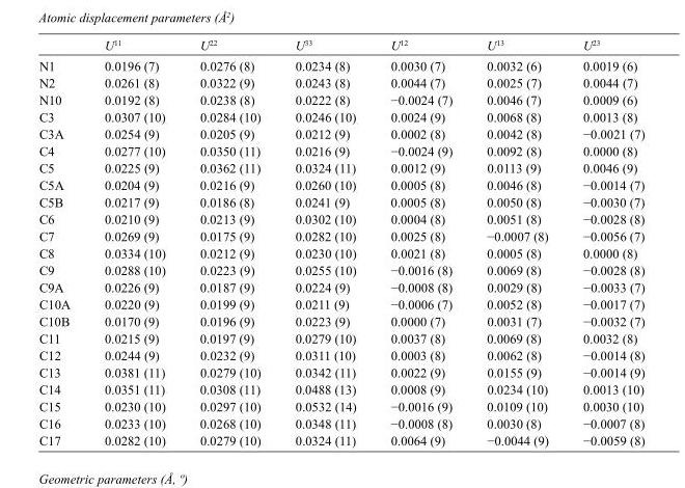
<table><thead><tr><td></td><td>U<sup>11</sup></td><td>U<sup>22</sup></td><td>U<sup>33</sup></td><td>U<sup>12</sup></td><td>U<sup>13</sup></td><td>U<sup>23</sup></td></tr></thead><tbody><tr><td>N1</td><td>0.0196 (7)</td><td>0.0276 (8)</td><td>0.0234 (8)</td><td>0.0030 (7)</td><td>0.0032 (6)</td><td>0.0019 (6)</td></tr><tr><td>N2</td><td>0.0261 (8)</td><td>0.0322 (9)</td><td>0.0243 (8)</td><td>0.0044 (7)</td><td>0.0025 (7)</td><td>0.0044 (7)</td></tr><tr><td>N10</td><td>0.0192 (8)</td><td>0.0238 (8)</td><td>0.0222 (8)</td><td>−0.0024 (7)</td><td>0.0046 (7)</td><td>0.0009 (6)</td></tr><tr><td>C3</td><td>0.0307 (10)</td><td>0.0284 (10)</td><td>0.0246 (10)</td><td>0.0024 (9)</td><td>0.0068 (8)</td><td>0.0013 (8)</td></tr><tr><td>C3A</td><td>0.0254 (9)</td><td>0.0205 (9)</td><td>0.0212 (9)</td><td>0.0002 (8)</td><td>0.0042 (8)</td><td>−0.0021 (7)</td></tr><tr><td>C4</td><td>0.0277 (10)</td><td>0.0350 (11)</td><td>0.0216 (9)</td><td>−0.0024 (9)</td><td>0.0092 (8)</td><td>0.0000 (8)</td></tr><tr><td>C5</td><td>0.0225 (9)</td><td>0.0362 (11)</td><td>0.0324 (11)</td><td>0.0012 (9)</td><td>0.0113 (9)</td><td>0.0046 (9)</td></tr><tr><td>C5A</td><td>0.0204 (9)</td><td>0.0216 (9)</td><td>0.0260 (10)</td><td>0.0005 (8)</td><td>0.0046 (8)</td><td>−0.0014 (7)</td></tr><tr><td>C5B</td><td>0.0217 (9)</td><td>0.0186 (8)</td><td>0.0241 (9)</td><td>0.0005 (8)</td><td>0.0050 (8)</td><td>−0.0030 (7)</td></tr><tr><td>C6</td><td>0.0210 (9)</td><td>0.0213 (9)</td><td>0.0302 (10)</td><td>0.0004 (8)</td><td>0.0051 (8)</td><td>−0.0028 (8)</td></tr><tr><td>C7</td><td>0.0269 (9)</td><td>0.0175 (9)</td><td>0.0282 (10)</td><td>0.0025 (8)</td><td>−0.0007 (8)</td><td>−0.0056 (7)</td></tr><tr><td>C8</td><td>0.0334 (10)</td><td>0.0212 (9)</td><td>0.0230 (10)</td><td>0.0021 (8)</td><td>0.0005 (8)</td><td>0.0000 (8)</td></tr><tr><td>C9</td><td>0.0288 (10)</td><td>0.0223 (9)</td><td>0.0255 (10)</td><td>−0.0016 (8)</td><td>0.0069 (8)</td><td>−0.0028 (8)</td></tr><tr><td>C9A</td><td>0.0226 (9)</td><td>0.0187 (9)</td><td>0.0224 (9)</td><td>−0.0008 (8)</td><td>0.0029 (8)</td><td>−0.0033 (7)</td></tr><tr><td>C10A</td><td>0.0220 (9)</td><td>0.0199 (9)</td><td>0.0211 (9)</td><td>−0.0006 (7)</td><td>0.0052 (8)</td><td>−0.0017 (7)</td></tr><tr><td>C10B</td><td>0.0170 (9)</td><td>0.0196 (9)</td><td>0.0223 (9)</td><td>0.0000 (7)</td><td>0.0031 (7)</td><td>−0.0032 (7)</td></tr><tr><td>C11</td><td>0.0215 (9)</td><td>0.0197 (9)</td><td>0.0279 (10)</td><td>0.0037 (8)</td><td>0.0069 (8)</td><td>0.0032 (8)</td></tr><tr><td>C12</td><td>0.0244 (9)</td><td>0.0232 (9)</td><td>0.0311 (10)</td><td>0.0003 (8)</td><td>0.0062 (8)</td><td>−0.0014 (8)</td></tr><tr><td>C13</td><td>0.0381 (11)</td><td>0.0279 (10)</td><td>0.0342 (11)</td><td>0.0022 (9)</td><td>0.0155 (9)</td><td>−0.0014 (9)</td></tr><tr><td>C14</td><td>0.0351 (11)</td><td>0.0308 (11)</td><td>0.0488 (13)</td><td>0.0008 (9)</td><td>0.0234 (10)</td><td>0.0013 (10)</td></tr><tr><td>C15</td><td>0.0230 (10)</td><td>0.0297 (10)</td><td>0.0532 (14)</td><td>−0.0016 (9)</td><td>0.0109 (10)</td><td>0.0030 (10)</td></tr><tr><td>C16</td><td>0.0233 (10)</td><td>0.0268 (10)</td><td>0.0348 (11)</td><td>−0.0008 (8)</td><td>0.0030 (8)</td><td>−0.0007 (8)</td></tr><tr><td>C17</td><td>0.0282 (10)</td><td>0.0279 (10)</td><td>0.0324 (11)</td><td>0.0064 (9)</td><td>−0.0044 (9)</td><td>−0.0059 (8)</td></tr></tbody></table>